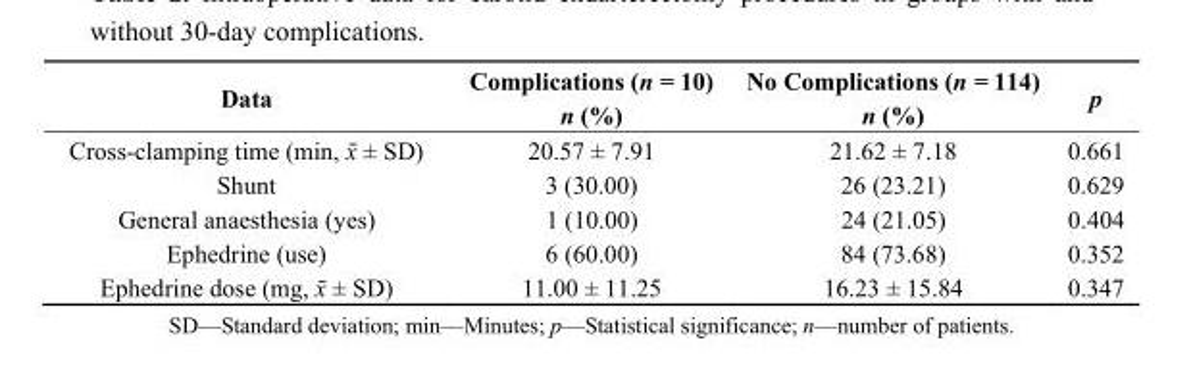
<table><thead><tr><td>Data</td><td>Complications (n = 10) n (%)</td><td>No Complications (n = 114) n (%)</td><td>p</td></tr></thead><tbody><tr><td>Cross-clamping time (min, x̄ ± SD)</td><td>20.57 ± 7.91</td><td>21.62 ± 7.18</td><td>0.661</td></tr><tr><td>Shunt</td><td>3 (30.00)</td><td>26 (23.21)</td><td>0.629</td></tr><tr><td>General anaesthesia (yes)</td><td>1 (10.00)</td><td>24 (21.05)</td><td>0.404</td></tr><tr><td>Ephedrine (use)</td><td>6 (60.00)</td><td>84 (73.68)</td><td>0.352</td></tr><tr><td>Ephedrine dose (mg, x̄ ± SD)</td><td>11.00 ± 11.25</td><td>16.23 ± 15.84</td><td>0.347</td></tr></tbody></table>